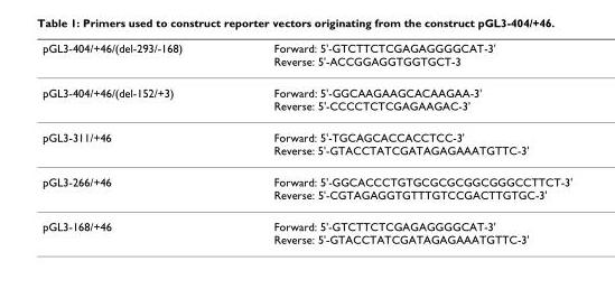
<table><thead><tr><td>pGL3-404/+46/(del-293/-168)</td><td>Forward: 5&#x27;-GTCTTCTCGAGAGGGGCAT-3&#x27; Reverse: 5&#x27;-ACCGGAGGTGGTGCT-3</td></tr></thead><tbody><tr><td>pGL3-404/+46/(del-152/+3)</td><td>Forward: 5&#x27;-GGCAAGAAGCACAAGAA-3&#x27; Reverse: 5&#x27;-CCCCTCTCGAGAAGAC-3&#x27;</td></tr><tr><td>pGL3-311/+46</td><td>Forward: 5&#x27;-TGCAGCACCACCTCC-3&#x27; Reverse: 5&#x27;-GTACCTATCGATAGAGAAATGTTC-3&#x27;</td></tr><tr><td>pGL3-266/+46</td><td>Forward: 5&#x27;-GGCACCCTGTGCGCGCGGCGGGCCTTCT-3&#x27; Reverse: 5&#x27;-CGTAGAGGTGTTTGTCCGACTTGTGC-3&#x27;</td></tr><tr><td>pGL3-168/+46</td><td>Forward: 5&#x27;-GTCTTCTCGAGAGGGGCAT-3&#x27; Reverse: 5&#x27;-GTACCTATCGATAGAGAAATGTTC-3&#x27;</td></tr></tbody></table>